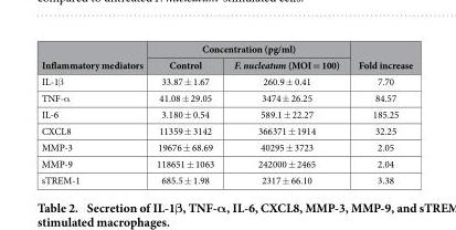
<table><thead><tr><td rowspan="2">Inflammatory mediators</td><td colspan="2">Concentration (pg/ml)</td><td rowspan="2">Fold increase</td></tr><tr><td>Control</td><td>F. nucleatum (MOI = 100)</td></tr></thead><tbody><tr><td>IL-1β</td><td>33.87 ± 1.67</td><td>260.9 ± 0.41</td><td>7.70</td></tr><tr><td>TNF-α</td><td>41.08 ± 29.05</td><td>3474 ± 26.25</td><td>84.57</td></tr><tr><td>IL-6</td><td>3.180 ± 0.54</td><td>589.1 ± 22.27</td><td>185.25</td></tr><tr><td>CXCL8</td><td>11359 ± 3142</td><td>366371 ± 1914</td><td>32.25</td></tr><tr><td>MMP-3</td><td>19676 ± 68.69</td><td>40295 ± 3723</td><td>2.05</td></tr><tr><td>MMP-9</td><td>118651 ± 1063</td><td>242000 ± 2465</td><td>2.04</td></tr><tr><td>sTREM-1</td><td>685.5 ± 1.98</td><td>2317 ± 66.10</td><td>3.38</td></tr></tbody></table>